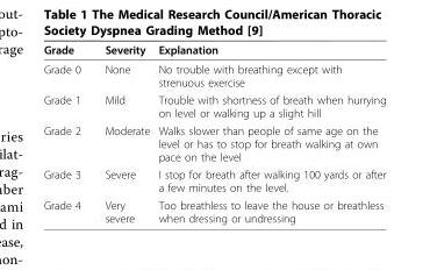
<table><thead><tr><td>Grade</td><td>Severity</td><td>Explanation</td></tr></thead><tbody><tr><td>Grade 0</td><td>None</td><td>No trouble with breathing except with strenuous exercise</td></tr><tr><td>Grade 1</td><td>Mild</td><td>Trouble with shortness of breath when hurrying on level or walking up a slight hill</td></tr><tr><td>Grade 2</td><td>Moderate</td><td>Walks slower than people of same age on the level or has to stop for breath walking at own pace on the level</td></tr><tr><td>Grade 3</td><td>Severe</td><td>I stop for breath after walking 100 yards or after a few minutes on the level.</td></tr><tr><td>Grade 4</td><td>Very severe</td><td>Too breathless to leave the house or breathless when dressing or undressing</td></tr></tbody></table>